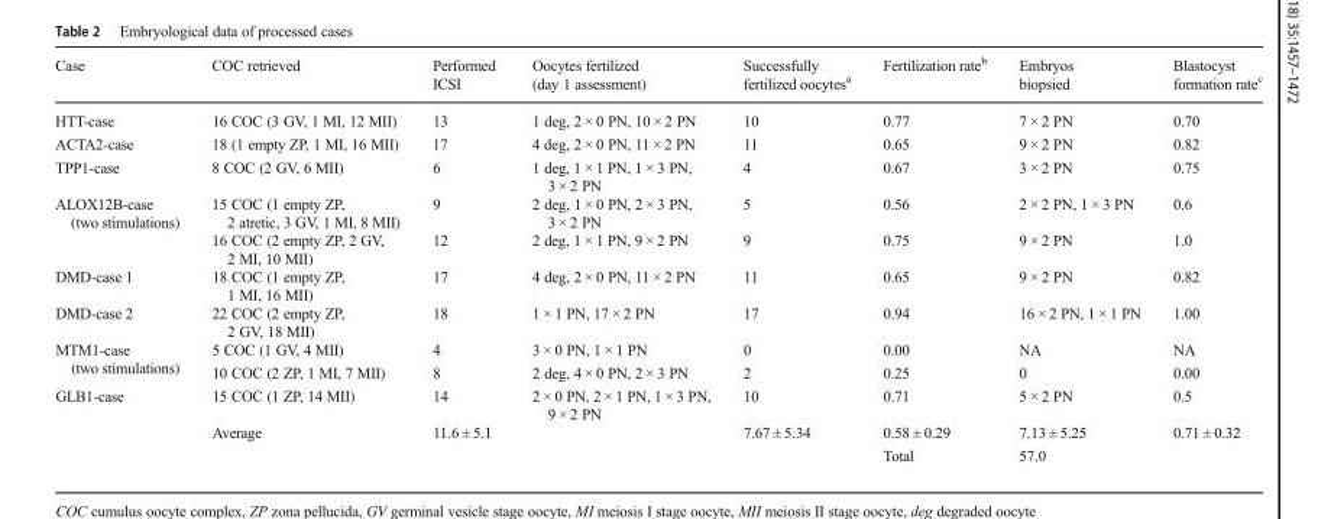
<table><thead><tr><td>Case</td><td>COC retrieved</td><td>Performed ICSI</td><td>Oocytes fertilized (day 1 assessment)</td><td>Successfully fertilized oocytes<sup>a</sup></td><td>Fertilization rate<sup>b</sup></td><td>Embryos biopsied</td><td>Blastocyst formation rate<sup>c</sup></td></tr></thead><tbody><tr><td>HTT-case</td><td>16 COC (3 GV, 1 MI, 12 MII)</td><td>13</td><td>1 deg, 2 × 0 PN, 10 × 2 PN</td><td>10</td><td>0.77</td><td>7 × 2 PN</td><td>0.70</td></tr><tr><td>ACTA2-case</td><td>18 (1 empty ZP, 1 MI, 16 MII)</td><td>17</td><td>4 deg, 2 × 0 PN, 11 × 2 PN</td><td>11</td><td>0.65</td><td>9 × 2 PN</td><td>0.82</td></tr><tr><td>TPP1-case</td><td>8 COC (2 GV, 6 MII)</td><td>6</td><td>1 deg, 1 × 1 PN, 1 × 3 PN, 3 × 2 PN</td><td>4</td><td>0.67</td><td>3 × 2 PN</td><td>0.75</td></tr><tr><td rowspan="2">ALOX12B-case (two stimulations)</td><td>15 COC (1 empty ZP, 2 atretic, 3 GV, 1 MI, 8 MII)</td><td>9</td><td>2 deg, 1 × 0 PN, 2 × 3 PN, 3 × 2 PN</td><td>5</td><td>0.56</td><td>2 × 2 PN, 1 × 3 PN</td><td>0.6</td></tr><tr><td>16 COC (2 empty ZP, 2 GV, 2 MI, 10 MII)</td><td>12</td><td>2 deg, 1 × 1 PN, 9 × 2 PN</td><td>9</td><td>0.75</td><td>9 × 2 PN</td><td>1.0</td></tr><tr><td>DMD-case 1</td><td>18 COC (1 empty ZP, 1 MI, 16 MII)</td><td>17</td><td>4 deg, 2 × 0 PN, 11 × 2 PN</td><td>11</td><td>0.65</td><td>9 × 2 PN</td><td>0.82</td></tr><tr><td>DMD-case 2</td><td>22 COC (2 empty ZP, 2 GV, 18 MII)</td><td>18</td><td>1 × 1 PN, 17 × 2 PN</td><td>17</td><td>0.94</td><td>16 × 2 PN, 1 × 1 PN</td><td>1.00</td></tr><tr><td rowspan="2">MTM1-case (two stimulations)</td><td>5 COC (1 GV, 4 MII)</td><td>4</td><td>3 × 0 PN, 1 × 1 PN</td><td>0</td><td>0.00</td><td>NA</td><td>NA</td></tr><tr><td>10 COC (2 ZP, 1 MI, 7 MII)</td><td>8</td><td>2 deg, 4 × 0 PN, 2 × 3 PN</td><td>2</td><td>0.25</td><td>0</td><td>0.00</td></tr><tr><td rowspan="3">GLB1-case</td><td>15 COC (1 ZP, 14 MII)</td><td>14</td><td>2 × 0 PN, 2 × 1 PN, 1 × 3 PN, 9 × 2 PN</td><td>10</td><td>0.71</td><td>5 × 2 PN</td><td>0.5</td></tr><tr><td>Average</td><td>11.6 ± 5.1</td><td></td><td>7.67 ± 5.34</td><td>0.58 ± 0.29</td><td>7.13 ± 5.25</td><td>0.71 ± 0.32</td></tr><tr><td></td><td></td><td></td><td></td><td>Total</td><td>57.0</td><td></td></tr></tbody></table>